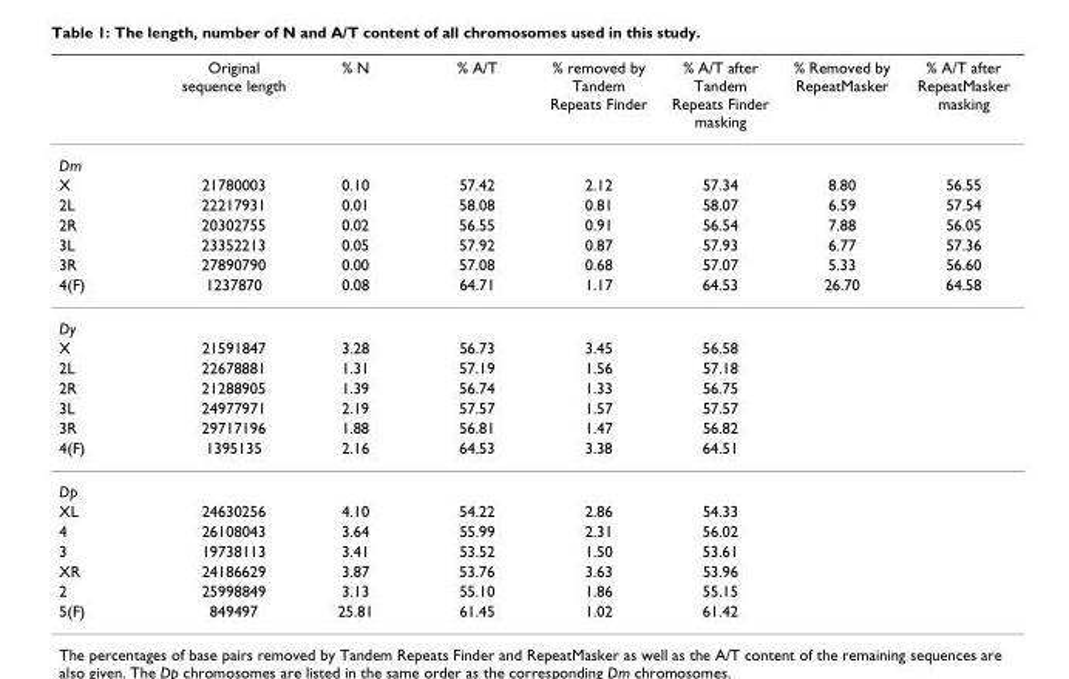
<table><thead><tr><td></td><td>Original sequence length</td><td>% N</td><td>% A/T</td><td>% removed by Tandem Repeats Finder</td><td>% A/T after Tandem Repeats Finder masking</td><td>% Removed by RepeatMasker</td><td>% A/T after RepeatMasker masking</td></tr></thead><tbody><tr><td colspan="8">Dm</td></tr><tr><td>X</td><td>21780003</td><td>0.10</td><td>57.42</td><td>2.12</td><td>57.34</td><td>8.80</td><td>56.55</td></tr><tr><td>2L</td><td>22217931</td><td>0.01</td><td>58.08</td><td>0.81</td><td>58.07</td><td>6.59</td><td>57.54</td></tr><tr><td>2R</td><td>20302755</td><td>0.02</td><td>56.55</td><td>0.91</td><td>56.54</td><td>7.88</td><td>56.05</td></tr><tr><td>3L</td><td>23352213</td><td>0.05</td><td>57.92</td><td>0.87</td><td>57.93</td><td>6.77</td><td>57.36</td></tr><tr><td>3R</td><td>27890790</td><td>0.00</td><td>57.08</td><td>0.68</td><td>57.07</td><td>5.33</td><td>56.60</td></tr><tr><td>4(F)</td><td>1237870</td><td>0.08</td><td>64.71</td><td>1.17</td><td>64.53</td><td>26.70</td><td>64.58</td></tr><tr><td colspan="8">Dy</td></tr><tr><td>X</td><td>21591847</td><td>3.28</td><td>56.73</td><td>3.45</td><td>56.58</td><td></td><td></td></tr><tr><td>2L</td><td>22678881</td><td>1.31</td><td>57.19</td><td>1.56</td><td>57.18</td><td></td><td></td></tr><tr><td>2R</td><td>21288905</td><td>1.39</td><td>56.74</td><td>1.33</td><td>56.75</td><td></td><td></td></tr><tr><td>3L</td><td>24977971</td><td>2.19</td><td>57.57</td><td>1.57</td><td>57.57</td><td></td><td></td></tr><tr><td>3R</td><td>29717196</td><td>1.88</td><td>56.81</td><td>1.47</td><td>56.82</td><td></td><td></td></tr><tr><td>4(F)</td><td>1395135</td><td>2.16</td><td>64.53</td><td>3.38</td><td>64.51</td><td></td><td></td></tr><tr><td colspan="8">Dp</td></tr><tr><td>XL</td><td>24630256</td><td>4.10</td><td>54.22</td><td>2.86</td><td>54.33</td><td></td><td></td></tr><tr><td>4</td><td>26108043</td><td>3.64</td><td>55.99</td><td>2.31</td><td>56.02</td><td></td><td></td></tr><tr><td>3</td><td>19738113</td><td>3.41</td><td>53.52</td><td>1.50</td><td>53.61</td><td></td><td></td></tr><tr><td>XR</td><td>24186629</td><td>3.87</td><td>53.76</td><td>3.63</td><td>53.96</td><td></td><td></td></tr><tr><td>2</td><td>25998849</td><td>3.13</td><td>55.10</td><td>1.86</td><td>55.15</td><td></td><td></td></tr><tr><td>5(F)</td><td>849497</td><td>25.81</td><td>61.45</td><td>1.02</td><td>61.42</td><td></td><td></td></tr></tbody></table>